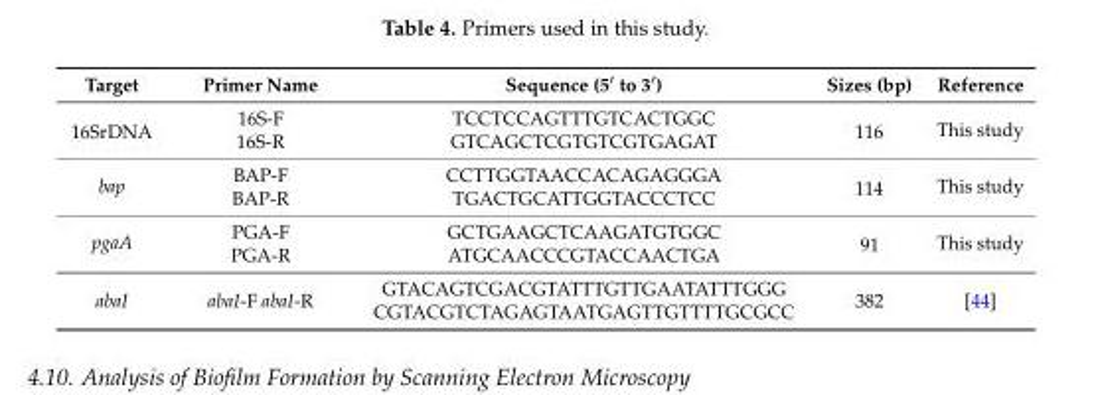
<table><thead><tr><td>Target</td><td>Primer Name</td><td>Sequence (5′ to 3′)</td><td>Sizes (bp)</td><td>Reference</td></tr></thead><tbody><tr><td rowspan="2">16SrDNA</td><td>16S-F</td><td>TCCTCCAGTTTGTCACTGGC</td><td rowspan="2">116</td><td rowspan="2">This study</td></tr><tr><td>16S-R</td><td>GTCAGCTCGTGTCGTGAGAT</td></tr><tr><td rowspan="2">bap</td><td>BAP-F</td><td>CCTTGGTAACCACAGAGGGA</td><td rowspan="2">114</td><td rowspan="2">This study</td></tr><tr><td>BAP-R</td><td>TGACTGCATTGGTACCCTCC</td></tr><tr><td rowspan="2">pgaA</td><td>PGA-F</td><td>GCTGAAGCTCAAGATGTGGC</td><td rowspan="2">91</td><td rowspan="2">This study</td></tr><tr><td>PGA-R</td><td>ATGCAACCCGTACCAACTGA</td></tr><tr><td>abaI</td><td>abaI-F abaI-R</td><td>GTACAGTCGACGTATTTGTTGAATATTTGGG CGTACGTCTAGAGTAATGAGTTGTTTTGCGCC</td><td>382</td><td>[44]</td></tr></tbody></table>